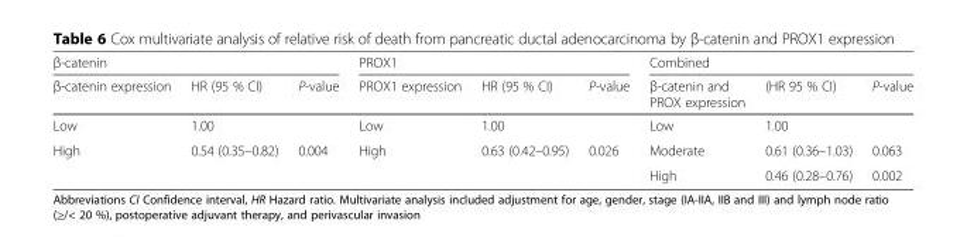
<table><thead><tr><td colspan="3">β-catenin</td><td colspan="3">PROX1</td><td colspan="3">Combined</td></tr><tr><td>β-catenin expression</td><td>HR (95 % CI)</td><td>P-value</td><td>PROX1 expression</td><td>HR (95 % CI)</td><td>P-value</td><td>β-catenin and PROX expression</td><td>(HR 95 % CI)</td><td>P-value</td></tr></thead><tbody><tr><td>Low</td><td>1.00</td><td></td><td>Low</td><td>1.00</td><td></td><td>Low</td><td>1.00</td><td></td></tr><tr><td rowspan="2">High</td><td>0.54 (0.35–0.82)</td><td>0.004</td><td>High</td><td>0.63 (0.42–0.95)</td><td>0.026</td><td>Moderate</td><td>0.61 (0.36–1.03)</td><td>0.063</td></tr><tr><td></td><td></td><td></td><td></td><td></td><td>High</td><td>0.46 (0.28–0.76)</td><td>0.002</td></tr></tbody></table>